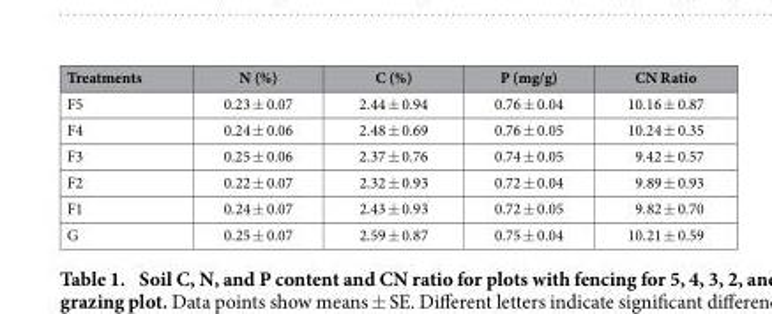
<table><thead><tr><td>Treatments</td><td>N (%)</td><td>C (%)</td><td>P (mg/g)</td><td>CN Ratio</td></tr></thead><tbody><tr><td>F5</td><td>0.23 ± 0.07</td><td>2.44 ± 0.94</td><td>0.76 ± 0.04</td><td>10.16 ± 0.87</td></tr><tr><td>F4</td><td>0.24 ± 0.06</td><td>2.48 ± 0.69</td><td>0.76 ± 0.05</td><td>10.24 ± 0.35</td></tr><tr><td>F3</td><td>0.25 ± 0.06</td><td>2.37 ± 0.76</td><td>0.74 ± 0.05</td><td>9.42 ± 0.57</td></tr><tr><td>F2</td><td>0.22 ± 0.07</td><td>2.32 ± 0.93</td><td>0.72 ± 0.04</td><td>9.89 ± 0.93</td></tr><tr><td>F1</td><td>0.24 ± 0.07</td><td>2.43 ± 0.93</td><td>0.72 ± 0.05</td><td>9.82 ± 0.70</td></tr><tr><td>G</td><td>0.25 ± 0.07</td><td>2.59 ± 0.87</td><td>0.75 ± 0.04</td><td>10.21 ± 0.59</td></tr></tbody></table>